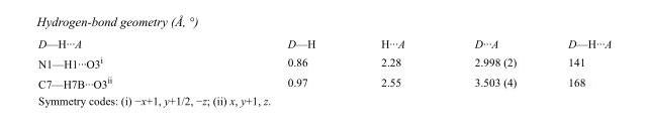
<table><tbody><tr><td>D—H···A</td><td>D—H</td><td>H···A</td><td>D···A</td><td>D—H···A</td></tr><tr><td>N1—H1···O3<sup>i</sup></td><td>0.86</td><td>2.28</td><td>2.998 (2)</td><td>141</td></tr><tr><td>C7—H7B···O3<sup>ii</sup></td><td>0.97</td><td>2.55</td><td>3.503 (4)</td><td>168</td></tr></tbody></table>